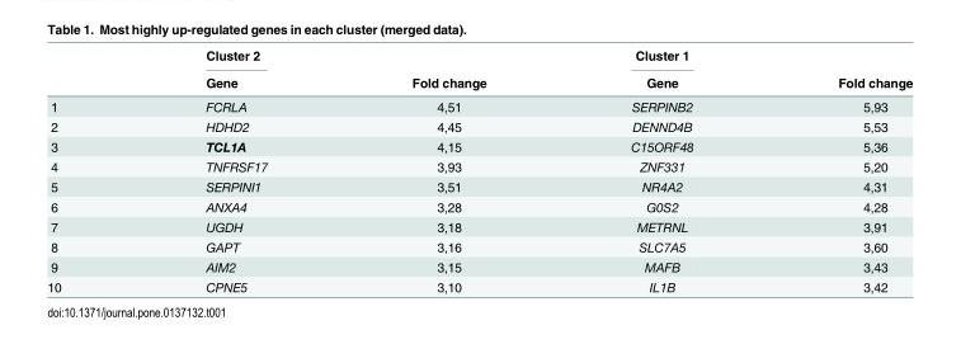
<table><thead><tr><td rowspan="2"></td><td rowspan="2">Cluster 2 Gene</td><td rowspan="2">Fold change</td><td rowspan="2">Cluster 1 Gene</td><td rowspan="2">Fold change</td></tr><tr></tr></thead><tbody><tr><td>1</td><td>FCRLA</td><td>4,51</td><td>SERPINB2</td><td>5,93</td></tr><tr><td>2</td><td>HDHD2</td><td>4,45</td><td>DENND4B</td><td>5,53</td></tr><tr><td>3</td><td>TCL1A</td><td>4,15</td><td>C15ORF48</td><td>5,36</td></tr><tr><td>4</td><td>TNFRSF17</td><td>3,93</td><td>ZNF331</td><td>5,20</td></tr><tr><td>5</td><td>SERPINI1</td><td>3,51</td><td>NR4A2</td><td>4,31</td></tr><tr><td>6</td><td>ANXA4</td><td>3,28</td><td>G0S2</td><td>4,28</td></tr><tr><td>7</td><td>UGDH</td><td>3,18</td><td>METRNL</td><td>3,91</td></tr><tr><td>8</td><td>GAPT</td><td>3,16</td><td>SLC7A5</td><td>3,60</td></tr><tr><td>9</td><td>AIM2</td><td>3,15</td><td>MAFB</td><td>3,43</td></tr><tr><td>10</td><td>CPNE5</td><td>3,10</td><td>IL1B</td><td>3,42</td></tr></tbody></table>